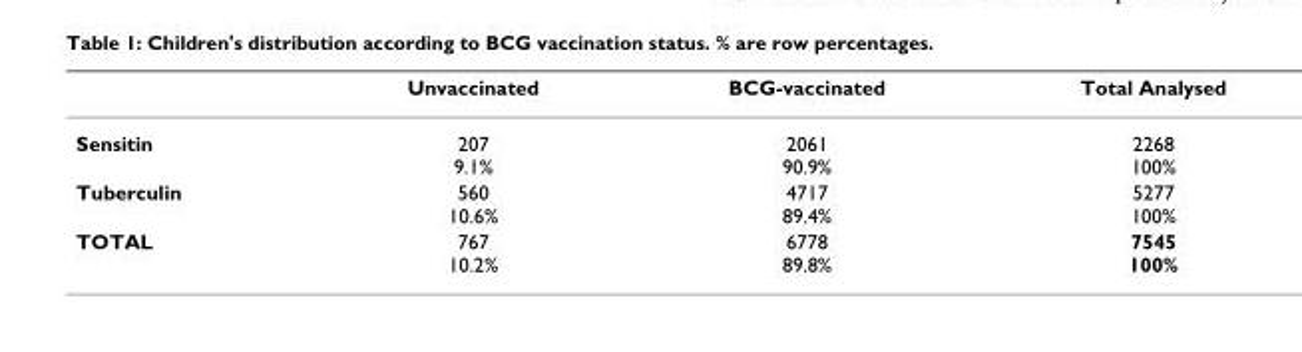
<table><thead><tr><td></td><td>Unvaccinated</td><td>BCG-vaccinated</td><td>Total Analysed</td></tr></thead><tbody><tr><td>Sensitin</td><td>207 9.1%</td><td>2061 90.9%</td><td>2268 100%</td></tr><tr><td>Tuberculin</td><td>560 10.6%</td><td>4717 89.4%</td><td>5277 100%</td></tr><tr><td>TOTAL</td><td>767 10.2%</td><td>6778 89.8%</td><td>7545 100%</td></tr></tbody></table>